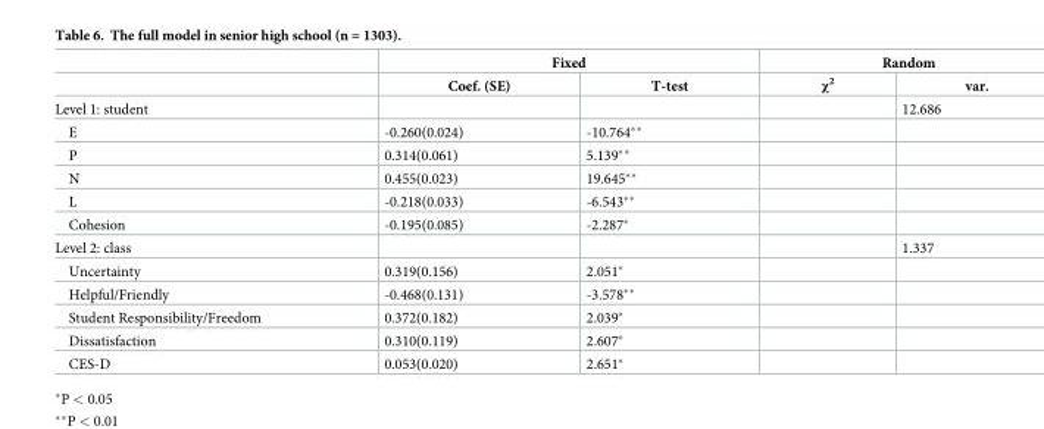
<table><thead><tr><td rowspan="2"></td><td colspan="2">Fixed</td><td colspan="2">Random</td></tr><tr><td>Coef. (SE)</td><td>T-test</td><td>χ<sup>2</sup></td><td>var.</td></tr></thead><tbody><tr><td>Level 1: student</td><td></td><td></td><td></td><td>12.686</td></tr><tr><td>E</td><td>-0.260(0.024)</td><td>-10.764**</td><td></td><td></td></tr><tr><td>P</td><td>0.314(0.061)</td><td>5.139**</td><td></td><td></td></tr><tr><td>N</td><td>0.455(0.023)</td><td>19.645**</td><td></td><td></td></tr><tr><td>L</td><td>-0.218(0.033)</td><td>-6.543**</td><td></td><td></td></tr><tr><td>Cohesion</td><td>-0.195(0.085)</td><td>-2.287*</td><td></td><td></td></tr><tr><td>Level 2: class</td><td></td><td></td><td></td><td>1.337</td></tr><tr><td>Uncertainty</td><td>0.319(0.156)</td><td>2.051*</td><td></td><td></td></tr><tr><td>Helpful/Friendly</td><td>-0.468(0.131)</td><td>-3.578**</td><td></td><td></td></tr><tr><td>Student Responsibility/Freedom</td><td>0.372(0.182)</td><td>2.039*</td><td></td><td></td></tr><tr><td>Dissatisfaction</td><td>0.310(0.119)</td><td>2.607*</td><td></td><td></td></tr><tr><td>CES-D</td><td>0.053(0.020)</td><td>2.651*</td><td></td><td></td></tr></tbody></table>